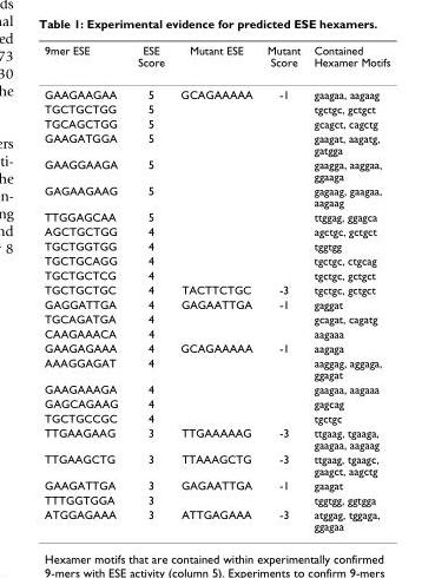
<table><thead><tr><td>9mer ESE</td><td>ESE Score</td><td>Mutant ESE</td><td>Mutant Score</td><td>Contained Hexamer Motifs</td></tr></thead><tbody><tr><td>GAAGAAGAA</td><td>5</td><td>GCAGAAAAA</td><td>-1</td><td>gaagaa, aagaag</td></tr><tr><td>TGCTGCTGG</td><td>5</td><td></td><td></td><td>tgctgc, gctgct</td></tr><tr><td>TGCAGCTGG</td><td>5</td><td></td><td></td><td>gcagct, cagctg</td></tr><tr><td>GAAGATGGA</td><td>5</td><td></td><td></td><td>gaagat, aagatg, gatgga</td></tr><tr><td>GAAGGAAGA</td><td>5</td><td></td><td></td><td>gaagga, aaggaa, ggaaga</td></tr><tr><td>GAGAAGAAG</td><td>5</td><td></td><td></td><td>gagaag, gaagaa, aagaag</td></tr><tr><td>TTGGAGCAA</td><td>5</td><td></td><td></td><td>ttggag, ggagca</td></tr><tr><td>AGCTGCTGG</td><td>4</td><td></td><td></td><td>agctgc, gctgct</td></tr><tr><td>TGCTGGTGG</td><td>4</td><td></td><td></td><td>tggtgg</td></tr><tr><td>TGCTGCAGG</td><td>4</td><td></td><td></td><td>tgctgc, ctgcag</td></tr><tr><td>TGCTGCTCG</td><td>4</td><td></td><td></td><td>tgctgc, gctgct</td></tr><tr><td>TGCTGCTGC</td><td>4</td><td>TACTTCTGC</td><td>-3</td><td>tgctgc, gctgct</td></tr><tr><td>GAGGATTGA</td><td>4</td><td>GAGAATTGA</td><td>-1</td><td>gaggat</td></tr><tr><td>TGCAGATGA</td><td>4</td><td></td><td></td><td>gcagat, cagatg</td></tr><tr><td>CAAGAAACA</td><td>4</td><td></td><td></td><td>aagaaa</td></tr><tr><td>GAAGAGAAA</td><td>4</td><td>GCAGAAAAA</td><td>-1</td><td>aagaga</td></tr><tr><td>AAAGGAGAT</td><td>4</td><td></td><td></td><td>aaggag, aggaga, ggagat</td></tr><tr><td>GAAGAAAGA</td><td>4</td><td></td><td></td><td>gaagaa, aagaaa</td></tr><tr><td>GAGCAGAAG</td><td>4</td><td></td><td></td><td>gagcag</td></tr><tr><td>TGCTGCCGC</td><td>4</td><td></td><td></td><td>tgctgc</td></tr><tr><td>TTGAAGAAG</td><td>3</td><td>TTGAAAAAG</td><td>-3</td><td>ttgaag, tgaaga, gaagaa, aagaag</td></tr><tr><td>TTGAAGCTG</td><td>3</td><td>TTAAAGCTG</td><td>-3</td><td>ttgaag, tgaagc, gaagct, aagctg</td></tr><tr><td>GAAGATTGA</td><td>3</td><td>GAGAATTGA</td><td>-1</td><td>gaagat</td></tr><tr><td>TTTGGTGGA</td><td>3</td><td></td><td></td><td>tggtgg, ggtgga</td></tr><tr><td>ATGGAGAAA</td><td>3</td><td>ATTGAGAAA</td><td>-3</td><td>atggag, tggaga, ggagaa</td></tr></tbody></table>